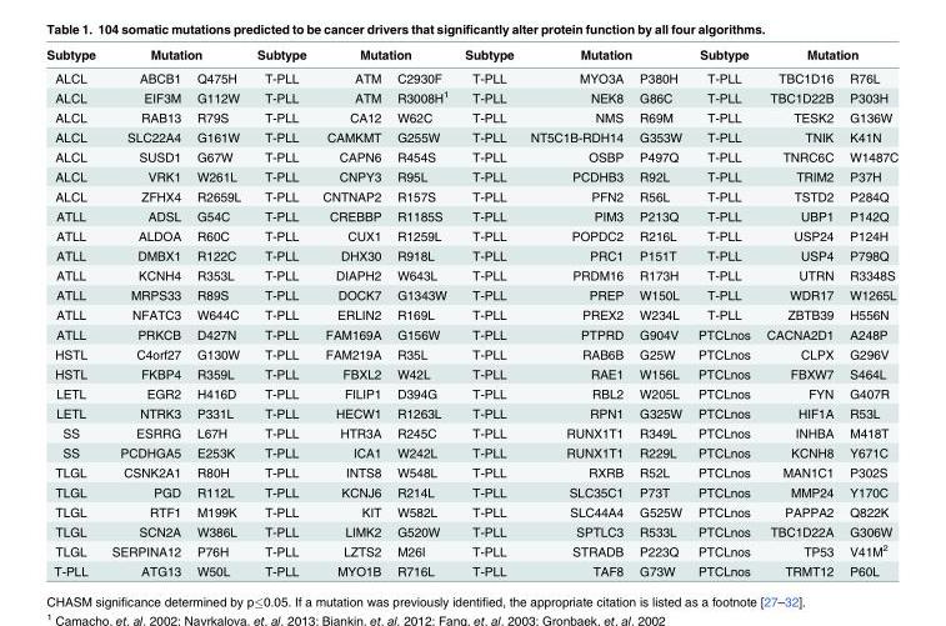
<table><thead><tr><td rowspan="2">Subtype ALCL</td><td colspan="2">Mutation</td><td rowspan="2">Subtype T-PLL</td><td colspan="2">Mutation</td><td rowspan="2">Subtype T-PLL</td><td colspan="2">Mutation</td><td rowspan="2">Subtype T-PLL</td><td colspan="2">Mutation</td></tr><tr><td>ABCB1</td><td>Q475H</td><td>ATM</td><td>C2930F</td><td>MYO3A</td><td>P380H</td><td>TBC1D16</td><td>R76L</td></tr></thead><tbody><tr><td>ALCL</td><td>EIF3M</td><td>G112W</td><td>T-PLL</td><td>ATM</td><td>R3008H<sup>1</sup></td><td>T-PLL</td><td>NEK8</td><td>G86C</td><td>T-PLL</td><td>TBC1D22B</td><td>P303H</td></tr><tr><td>ALCL</td><td>RAB13</td><td>R79S</td><td>T-PLL</td><td>CA12</td><td>W62C</td><td>T-PLL</td><td>NMS</td><td>R69M</td><td>T-PLL</td><td>TESK2</td><td>G136W</td></tr><tr><td>ALCL</td><td>SLC22A4</td><td>G161W</td><td>T-PLL</td><td>CAMKMT</td><td>G255W</td><td>T-PLL</td><td>NT5C1B-RDH14</td><td>G353W</td><td>T-PLL</td><td>TNIK</td><td>K41N</td></tr><tr><td>ALCL</td><td>SUSD1</td><td>G67W</td><td>T-PLL</td><td>CAPN6</td><td>R454S</td><td>T-PLL</td><td>OSBP</td><td>P497Q</td><td>T-PLL</td><td>TNRC6C</td><td>W1487C</td></tr><tr><td>ALCL</td><td>VRK1</td><td>W261L</td><td>T-PLL</td><td>CNPY3</td><td>R95L</td><td>T-PLL</td><td>PCDHB3</td><td>R92L</td><td>T-PLL</td><td>TRIM2</td><td>P37H</td></tr><tr><td>ALCL</td><td>ZFHX4</td><td>R2659L</td><td>T-PLL</td><td>CNTNAP2</td><td>R157S</td><td>T-PLL</td><td>PFN2</td><td>R56L</td><td>T-PLL</td><td>TSTD2</td><td>P284Q</td></tr><tr><td>ATLL</td><td>ADSL</td><td>G54C</td><td>T-PLL</td><td>CREBBP</td><td>R1185S</td><td>T-PLL</td><td>PIM3</td><td>P213Q</td><td>T-PLL</td><td>UBP1</td><td>P142Q</td></tr><tr><td>ATLL</td><td>ALDOA</td><td>R60C</td><td>T-PLL</td><td>CUX1</td><td>R1259L</td><td>T-PLL</td><td>POPDC2</td><td>R216L</td><td>T-PLL</td><td>USP24</td><td>P124H</td></tr><tr><td>ATLL</td><td>DMBX1</td><td>R122C</td><td>T-PLL</td><td>DHX30</td><td>R918L</td><td>T-PLL</td><td>PRC1</td><td>P151T</td><td>T-PLL</td><td>USP4</td><td>P798Q</td></tr><tr><td>ATLL</td><td>KCNH4</td><td>R353L</td><td>T-PLL</td><td>DIAPH2</td><td>W643L</td><td>T-PLL</td><td>PRDM16</td><td>R173H</td><td>T-PLL</td><td>UTRN</td><td>R3348S</td></tr><tr><td>ATLL</td><td>MRPS33</td><td>R89S</td><td>T-PLL</td><td>DOCK7</td><td>G1343W</td><td>T-PLL</td><td>PREP</td><td>W150L</td><td>T-PLL</td><td>WDR17</td><td>W1265L</td></tr><tr><td>ATLL</td><td>NFATC3</td><td>W644C</td><td>T-PLL</td><td>ERLIN2</td><td>R169L</td><td>T-PLL</td><td>PREX2</td><td>W234L</td><td>T-PLL</td><td>ZBTB39</td><td>H556N</td></tr><tr><td>ATLL</td><td>PRKCB</td><td>D427N</td><td>T-PLL</td><td>FAM169A</td><td>G156W</td><td>T-PLL</td><td>PTPRD</td><td>G904V</td><td>PTCLnos</td><td>CACNA2D1</td><td>A248P</td></tr><tr><td>HSTL</td><td>C4orf27</td><td>G130W</td><td>T-PLL</td><td>FAM219A</td><td>R35L</td><td>T-PLL</td><td>RAB6B</td><td>G25W</td><td>PTCLnos</td><td>CLPX</td><td>G296V</td></tr><tr><td>HSTL</td><td>FKBP4</td><td>R359L</td><td>T-PLL</td><td>FBXL2</td><td>W42L</td><td>T-PLL</td><td>RAE1</td><td>W156L</td><td>PTCLnos</td><td>FBXW7</td><td>S464L</td></tr><tr><td>LETL</td><td>EGR2</td><td>H416D</td><td>T-PLL</td><td>FILIP1</td><td>D394G</td><td>T-PLL</td><td>RBL2</td><td>W205L</td><td>PTCLnos</td><td>FYN</td><td>G407R</td></tr><tr><td>LETL</td><td>NTRK3</td><td>P331L</td><td>T-PLL</td><td>HECW1</td><td>R1263L</td><td>T-PLL</td><td>RPN1</td><td>G325W</td><td>PTCLnos</td><td>HIF1A</td><td>R53L</td></tr><tr><td>SS</td><td>ESRRG</td><td>L67H</td><td>T-PLL</td><td>HTR3A</td><td>R245C</td><td>T-PLL</td><td>RUNX1T1</td><td>R349L</td><td>PTCLnos</td><td>INHBA</td><td>M418T</td></tr><tr><td>SS</td><td>PCDHGA5</td><td>E253K</td><td>T-PLL</td><td>ICA1</td><td>W242L</td><td>T-PLL</td><td>RUNX1T1</td><td>R229L</td><td>PTCLnos</td><td>KCNH8</td><td>Y671C</td></tr><tr><td>TLGL</td><td>CSNK2A1</td><td>R80H</td><td>T-PLL</td><td>INTS8</td><td>W548L</td><td>T-PLL</td><td>RXRB</td><td>R52L</td><td>PTCLnos</td><td>MAN1C1</td><td>P302S</td></tr><tr><td>TLGL</td><td>PGD</td><td>R112L</td><td>T-PLL</td><td>KCNJ6</td><td>R214L</td><td>T-PLL</td><td>SLC35C1</td><td>P73T</td><td>PTCLnos</td><td>MMP24</td><td>Y170C</td></tr><tr><td>TLGL</td><td>RTF1</td><td>M199K</td><td>T-PLL</td><td>KIT</td><td>W582L</td><td>T-PLL</td><td>SLC44A4</td><td>G525W</td><td>PTCLnos</td><td>PAPPA2</td><td>Q822K</td></tr><tr><td>TLGL</td><td>SCN2A</td><td>W386L</td><td>T-PLL</td><td>LIMK2</td><td>G520W</td><td>T-PLL</td><td>SPTLC3</td><td>R533L</td><td>PTCLnos</td><td>TBC1D22A</td><td>G306W</td></tr><tr><td>TLGL</td><td>SERPINA12</td><td>P76H</td><td>T-PLL</td><td>LZTS2</td><td>M26I</td><td>T-PLL</td><td>STRADB</td><td>P223Q</td><td>PTCLnos</td><td>TP53</td><td>V41M<sup>2</sup></td></tr><tr><td>T-PLL</td><td>ATG13</td><td>W50L</td><td>T-PLL</td><td>MYO1B</td><td>R716L</td><td>T-PLL</td><td>TAF8</td><td>G73W</td><td>PTCLnos</td><td>TRMT12</td><td>P60L</td></tr></tbody></table>